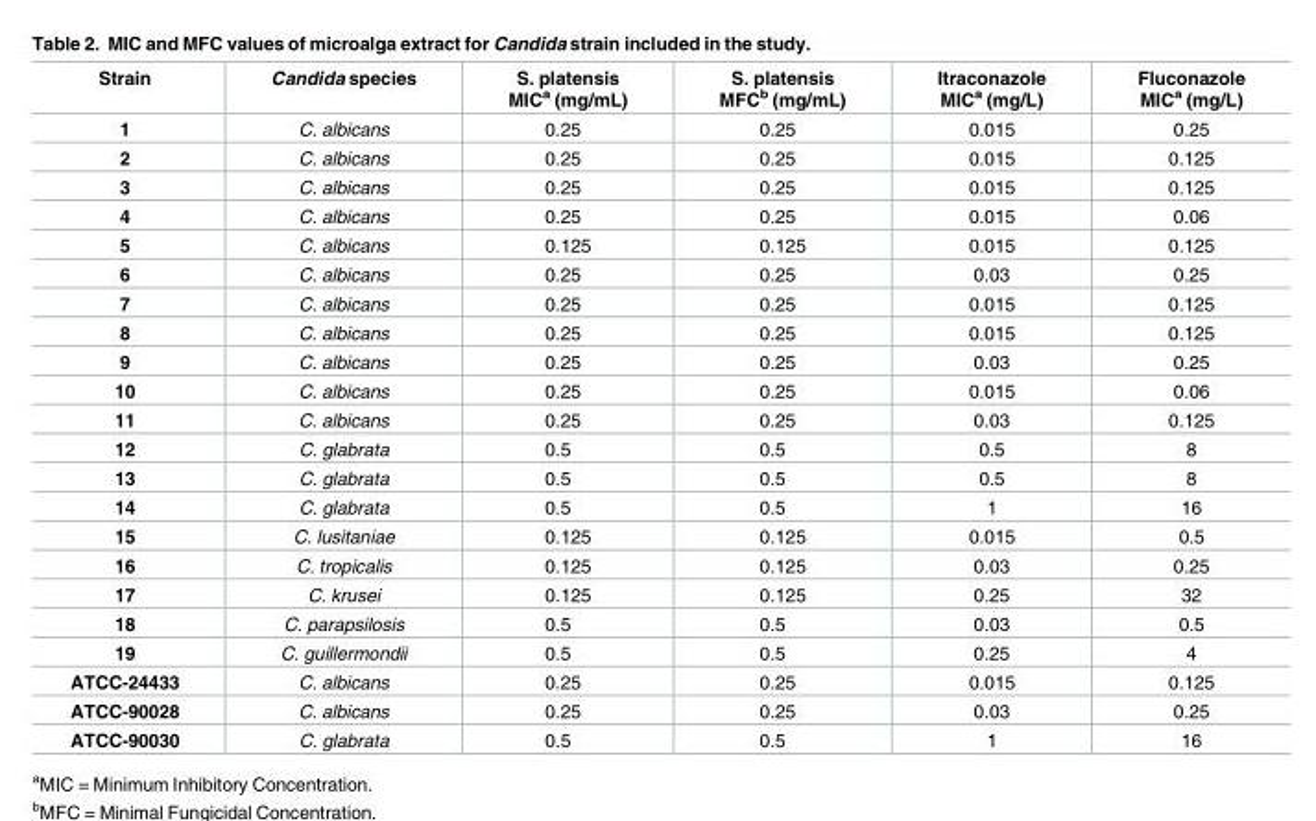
<table><thead><tr><td>Strain</td><td>Candida species</td><td>S. platensis MIC<sup>a</sup> (mg/mL)</td><td>S. platensis MFC<sup>b</sup> (mg/mL)</td><td>Itraconazole MIC<sup>a</sup> (mg/L)</td><td>Fluconazole MIC<sup>a</sup> (mg/L)</td></tr></thead><tbody><tr><td>1</td><td>C. albicans</td><td>0.25</td><td>0.25</td><td>0.015</td><td>0.25</td></tr><tr><td>2</td><td>C. albicans</td><td>0.25</td><td>0.25</td><td>0.015</td><td>0.125</td></tr><tr><td>3</td><td>C. albicans</td><td>0.25</td><td>0.25</td><td>0.015</td><td>0.125</td></tr><tr><td>4</td><td>C. albicans</td><td>0.25</td><td>0.25</td><td>0.015</td><td>0.06</td></tr><tr><td>5</td><td>C. albicans</td><td>0.125</td><td>0.125</td><td>0.015</td><td>0.125</td></tr><tr><td>6</td><td>C. albicans</td><td>0.25</td><td>0.25</td><td>0.03</td><td>0.25</td></tr><tr><td>7</td><td>C. albicans</td><td>0.25</td><td>0.25</td><td>0.015</td><td>0.125</td></tr><tr><td>8</td><td>C. albicans</td><td>0.25</td><td>0.25</td><td>0.015</td><td>0.125</td></tr><tr><td>9</td><td>C. albicans</td><td>0.25</td><td>0.25</td><td>0.03</td><td>0.25</td></tr><tr><td>10</td><td>C. albicans</td><td>0.25</td><td>0.25</td><td>0.015</td><td>0.06</td></tr><tr><td>11</td><td>C. albicans</td><td>0.25</td><td>0.25</td><td>0.03</td><td>0.125</td></tr><tr><td>12</td><td>C. glabrata</td><td>0.5</td><td>0.5</td><td>0.5</td><td>8</td></tr><tr><td>13</td><td>C. glabrata</td><td>0.5</td><td>0.5</td><td>0.5</td><td>8</td></tr><tr><td>14</td><td>C. glabrata</td><td>0.5</td><td>0.5</td><td>1</td><td>16</td></tr><tr><td>15</td><td>C. lusitaniae</td><td>0.125</td><td>0.125</td><td>0.015</td><td>0.5</td></tr><tr><td>16</td><td>C. tropicalis</td><td>0.125</td><td>0.125</td><td>0.03</td><td>0.25</td></tr><tr><td>17</td><td>C. krusei</td><td>0.125</td><td>0.125</td><td>0.25</td><td>32</td></tr><tr><td>18</td><td>C. parapsilosis</td><td>0.5</td><td>0.5</td><td>0.03</td><td>0.5</td></tr><tr><td>19</td><td>C. guillermondii</td><td>0.5</td><td>0.5</td><td>0.25</td><td>4</td></tr><tr><td>ATCC-24433</td><td>C. albicans</td><td>0.25</td><td>0.25</td><td>0.015</td><td>0.125</td></tr><tr><td>ATCC-90028</td><td>C. albicans</td><td>0.25</td><td>0.25</td><td>0.03</td><td>0.25</td></tr><tr><td>ATCC-90030</td><td>C. glabrata</td><td>0.5</td><td>0.5</td><td>1</td><td>16</td></tr></tbody></table>